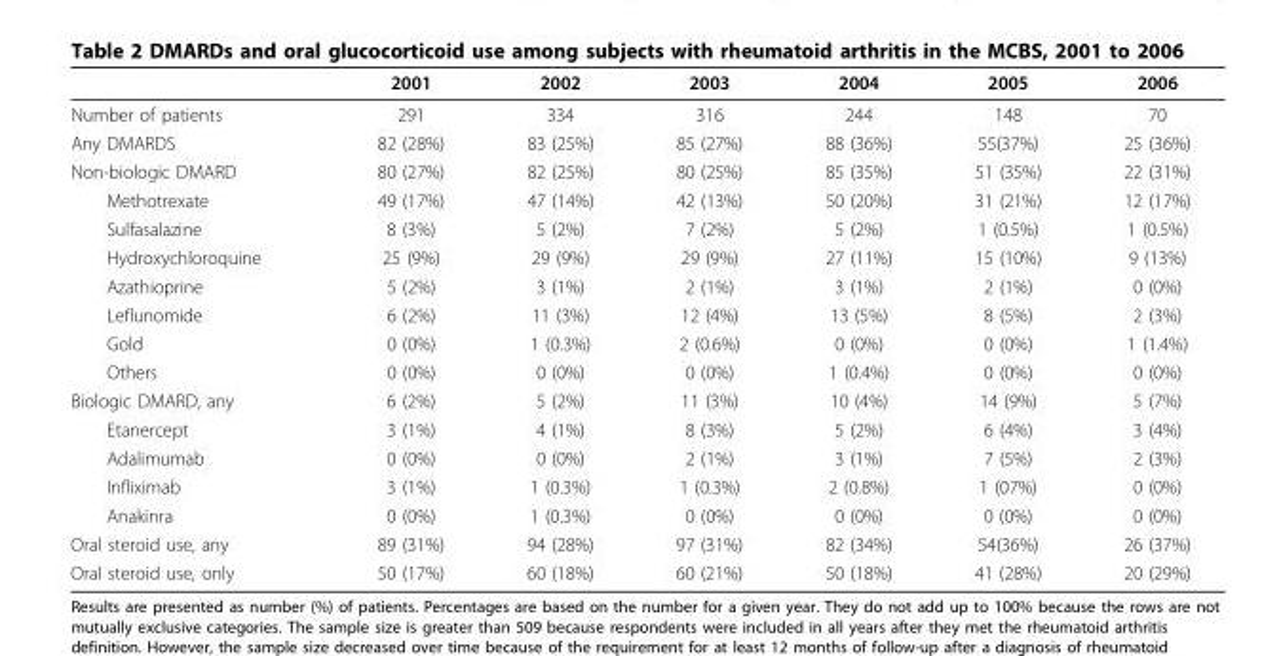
<table><thead><tr><td></td><td>2001</td><td>2002</td><td>2003</td><td>2004</td><td>2005</td><td>2006</td></tr></thead><tbody><tr><td>Number of patients</td><td>291</td><td>334</td><td>316</td><td>244</td><td>148</td><td>70</td></tr><tr><td>Any DMARDS</td><td>82 (28%)</td><td>83 (25%)</td><td>85 (27%)</td><td>88 (36%)</td><td>55(37%)</td><td>25 (36%)</td></tr><tr><td>Non-biologic DMARD</td><td>80 (27%)</td><td>82 (25%)</td><td>80 (25%)</td><td>85 (35%)</td><td>51 (35%)</td><td>22 (31%)</td></tr><tr><td>Methotrexate</td><td>49 (17%)</td><td>47 (14%)</td><td>42 (13%)</td><td>50 (20%)</td><td>31 (21%)</td><td>12 (17%)</td></tr><tr><td>Sulfasalazine</td><td>8 (3%)</td><td>5 (2%)</td><td>7 (2%)</td><td>5 (2%)</td><td>1 (0.5%)</td><td>1 (0.5%)</td></tr><tr><td>Hydroxychloroquine</td><td>25 (9%)</td><td>29 (9%)</td><td>29 (9%)</td><td>27 (11%)</td><td>15 (10%)</td><td>9 (13%)</td></tr><tr><td>Azathioprine</td><td>5 (2%)</td><td>3 (1%)</td><td>2 (1%)</td><td>3 (1%)</td><td>2 (1%)</td><td>0 (0%)</td></tr><tr><td>Leflunomide</td><td>6 (2%)</td><td>11 (3%)</td><td>12 (4%)</td><td>13 (5%)</td><td>8 (5%)</td><td>2 (3%)</td></tr><tr><td>Gold</td><td>0 (0%)</td><td>1 (0.3%)</td><td>2 (0.6%)</td><td>0 (0%)</td><td>0 (0%)</td><td>1 (1.4%)</td></tr><tr><td>Others</td><td>0 (0%)</td><td>0 (0%)</td><td>0 (0%)</td><td>1 (0.4%)</td><td>0 (0%)</td><td>0 (0%)</td></tr><tr><td>Biologic DMARD, any</td><td>6 (2%)</td><td>5 (2%)</td><td>11 (3%)</td><td>10 (4%)</td><td>14 (9%)</td><td>5 (7%)</td></tr><tr><td>Etanercept</td><td>3 (1%)</td><td>4 (1%)</td><td>8 (3%)</td><td>5 (2%)</td><td>6 (4%)</td><td>3 (4%)</td></tr><tr><td>Adalimumab</td><td>0 (0%)</td><td>0 (0%)</td><td>2 (1%)</td><td>3 (1%)</td><td>7 (5%)</td><td>2 (3%)</td></tr><tr><td>Infliximab</td><td>3 (1%)</td><td>1 (0.3%)</td><td>1 (0.3%)</td><td>2 (0.8%)</td><td>1 (07%)</td><td>0 (0%)</td></tr><tr><td>Anakinra</td><td>0 (0%)</td><td>1 (0.3%)</td><td>0 (0%)</td><td>0 (0%)</td><td>0 (0%)</td><td>0 (0%)</td></tr><tr><td>Oral steroid use, any</td><td>89 (31%)</td><td>94 (28%)</td><td>97 (31%)</td><td>82 (34%)</td><td>54(36%)</td><td>26 (37%)</td></tr><tr><td>Oral steroid use, only</td><td>50 (17%)</td><td>60 (18%)</td><td>60 (21%)</td><td>50 (18%)</td><td>41 (28%)</td><td>20 (29%)</td></tr></tbody></table>